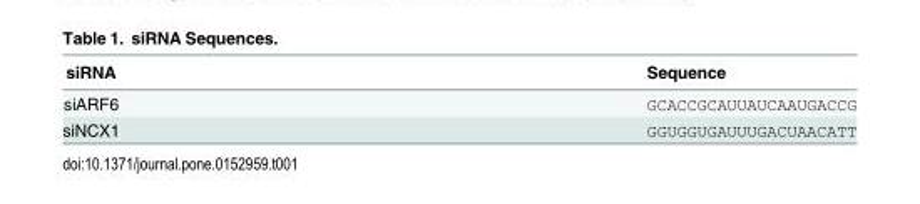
<table><thead><tr><td>siRNA</td><td>Sequence</td></tr></thead><tbody><tr><td>siARF6</td><td>GCACCGCAUUAUCAAUGACCG</td></tr><tr><td>siNCX1</td><td>GGUGGUGAUUUGACUAACATT</td></tr></tbody></table>